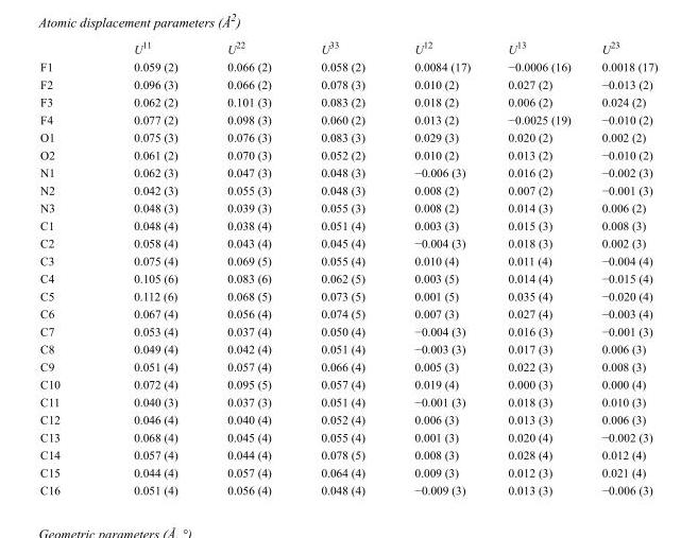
<table><thead><tr><td></td><td>U<sup>11</sup></td><td>U<sup>22</sup></td><td>U<sup>33</sup></td><td>U<sup>12</sup></td><td>U<sup>13</sup></td><td>U<sup>23</sup></td></tr></thead><tbody><tr><td>F1</td><td>0.059 (2)</td><td>0.066 (2)</td><td>0.058 (2)</td><td>0.0084 (17)</td><td>−0.0006 (16)</td><td>0.0018 (17)</td></tr><tr><td>F2</td><td>0.096 (3)</td><td>0.066 (2)</td><td>0.078 (3)</td><td>0.010 (2)</td><td>0.027 (2)</td><td>−0.013 (2)</td></tr><tr><td>F3</td><td>0.062 (2)</td><td>0.101 (3)</td><td>0.083 (2)</td><td>0.018 (2)</td><td>0.006 (2)</td><td>0.024 (2)</td></tr><tr><td>F4</td><td>0.077 (2)</td><td>0.098 (3)</td><td>0.060 (2)</td><td>0.013 (2)</td><td>−0.0025 (19)</td><td>−0.010 (2)</td></tr><tr><td>O1</td><td>0.075 (3)</td><td>0.076 (3)</td><td>0.083 (3)</td><td>0.029 (3)</td><td>0.020 (2)</td><td>0.002 (2)</td></tr><tr><td>O2</td><td>0.061 (2)</td><td>0.070 (3)</td><td>0.052 (2)</td><td>0.010 (2)</td><td>0.013 (2)</td><td>−0.010 (2)</td></tr><tr><td>N1</td><td>0.062 (3)</td><td>0.047 (3)</td><td>0.048 (3)</td><td>−0.006 (3)</td><td>0.016 (2)</td><td>−0.002 (3)</td></tr><tr><td>N2</td><td>0.042 (3)</td><td>0.055 (3)</td><td>0.048 (3)</td><td>0.008 (2)</td><td>0.007 (2)</td><td>−0.001 (3)</td></tr><tr><td>N3</td><td>0.048 (3)</td><td>0.039 (3)</td><td>0.055 (3)</td><td>0.008 (2)</td><td>0.014 (3)</td><td>0.006 (2)</td></tr><tr><td>C1</td><td>0.048 (4)</td><td>0.038 (4)</td><td>0.051 (4)</td><td>0.003 (3)</td><td>0.015 (3)</td><td>0.008 (3)</td></tr><tr><td>C2</td><td>0.058 (4)</td><td>0.043 (4)</td><td>0.045 (4)</td><td>−0.004 (3)</td><td>0.018 (3)</td><td>0.002 (3)</td></tr><tr><td>C3</td><td>0.075 (4)</td><td>0.069 (5)</td><td>0.055 (4)</td><td>0.010 (4)</td><td>0.011 (4)</td><td>−0.004 (4)</td></tr><tr><td>C4</td><td>0.105 (6)</td><td>0.083 (6)</td><td>0.062 (5)</td><td>0.003 (5)</td><td>0.014 (4)</td><td>−0.015 (4)</td></tr><tr><td>C5</td><td>0.112 (6)</td><td>0.068 (5)</td><td>0.073 (5)</td><td>0.001 (5)</td><td>0.035 (4)</td><td>−0.020 (4)</td></tr><tr><td>C6</td><td>0.067 (4)</td><td>0.056 (4)</td><td>0.074 (5)</td><td>0.007 (3)</td><td>0.027 (4)</td><td>−0.003 (4)</td></tr><tr><td>C7</td><td>0.053 (4)</td><td>0.037 (4)</td><td>0.050 (4)</td><td>−0.004 (3)</td><td>0.016 (3)</td><td>−0.001 (3)</td></tr><tr><td>C8</td><td>0.049 (4)</td><td>0.042 (4)</td><td>0.051 (4)</td><td>−0.003 (3)</td><td>0.017 (3)</td><td>0.006 (3)</td></tr><tr><td>C9</td><td>0.051 (4)</td><td>0.057 (4)</td><td>0.066 (4)</td><td>0.005 (3)</td><td>0.022 (3)</td><td>0.008 (3)</td></tr><tr><td>C10</td><td>0.072 (4)</td><td>0.095 (5)</td><td>0.057 (4)</td><td>0.019 (4)</td><td>0.000 (3)</td><td>0.000 (4)</td></tr><tr><td>C11</td><td>0.040 (3)</td><td>0.037 (3)</td><td>0.051 (4)</td><td>−0.001 (3)</td><td>0.018 (3)</td><td>0.010 (3)</td></tr><tr><td>C12</td><td>0.046 (4)</td><td>0.040 (4)</td><td>0.052 (4)</td><td>0.006 (3)</td><td>0.013 (3)</td><td>0.006 (3)</td></tr><tr><td>C13</td><td>0.068 (4)</td><td>0.045 (4)</td><td>0.055 (4)</td><td>0.001 (3)</td><td>0.020 (4)</td><td>−0.002 (3)</td></tr><tr><td>C14</td><td>0.057 (4)</td><td>0.044 (4)</td><td>0.078 (5)</td><td>0.008 (3)</td><td>0.028 (4)</td><td>0.012 (4)</td></tr><tr><td>C15</td><td>0.044 (4)</td><td>0.057 (4)</td><td>0.064 (4)</td><td>0.009 (3)</td><td>0.012 (3)</td><td>0.021 (4)</td></tr><tr><td>C16</td><td>0.051 (4)</td><td>0.056 (4)</td><td>0.048 (4)</td><td>−0.009 (3)</td><td>0.013 (3)</td><td>−0.006 (3)</td></tr></tbody></table>